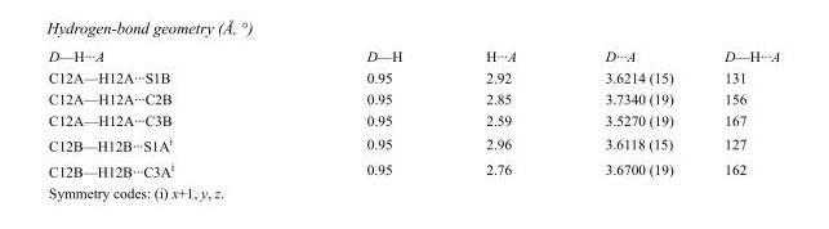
<table><tbody><tr><td>D—H···A</td><td>D—H</td><td>H···A</td><td>D···A</td><td>D—H···A</td></tr><tr><td>C12A—H12A···S1B</td><td>0.95</td><td>2.92</td><td>3.6214 (15)</td><td>131</td></tr><tr><td>C12A—H12A···C2B</td><td>0.95</td><td>2.85</td><td>3.7340 (19)</td><td>156</td></tr><tr><td>C12A—H12A···C3B</td><td>0.95</td><td>2.59</td><td>3.5270 (19)</td><td>167</td></tr><tr><td>C12B—H12B···S1A<sup>i</sup></td><td>0.95</td><td>2.96</td><td>3.6118 (15)</td><td>127</td></tr><tr><td>C12B—H12B···C3A<sup>i</sup></td><td>0.95</td><td>2.76</td><td>3.6700 (19)</td><td>162</td></tr></tbody></table>